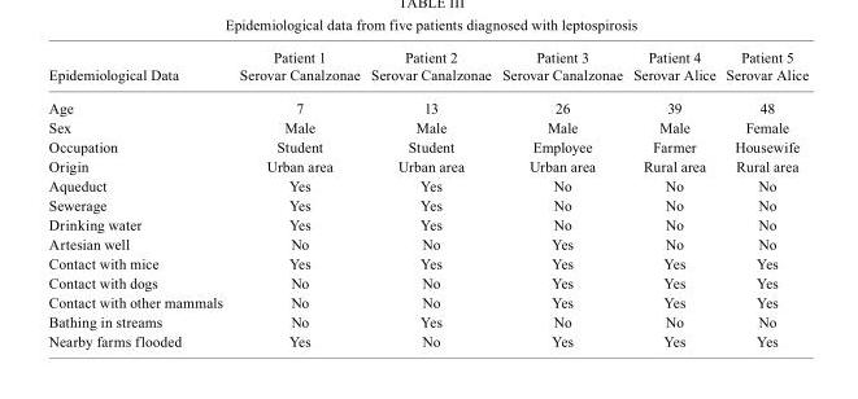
<table><thead><tr><td>Epidemiological Data</td><td>Patient 1 Serovar Canalzonae</td><td>Patient 2 Serovar Canalzonae</td><td>Patient 3 Serovar Canalzonae</td><td>Patient 4 Serovar Alice</td><td>Patient 5 Serovar Alice</td></tr></thead><tbody><tr><td>Age</td><td>7</td><td>13</td><td>26</td><td>39</td><td>48</td></tr><tr><td>Sex</td><td>Male</td><td>Male</td><td>Male</td><td>Male</td><td>Female</td></tr><tr><td>Occupation</td><td>Student</td><td>Student</td><td>Employee</td><td>Farmer</td><td>Housewife</td></tr><tr><td>Origin</td><td>Urban area</td><td>Urban area</td><td>Urban area</td><td>Rural area</td><td>Rural area</td></tr><tr><td>Aqueduct</td><td>Yes</td><td>Yes</td><td>No</td><td>No</td><td>No</td></tr><tr><td>Sewerage</td><td>Yes</td><td>Yes</td><td>No</td><td>No</td><td>No</td></tr><tr><td>Drinking water</td><td>Yes</td><td>Yes</td><td>No</td><td>No</td><td>No</td></tr><tr><td>Artesian well</td><td>No</td><td>No</td><td>Yes</td><td>No</td><td>No</td></tr><tr><td>Contact with mice</td><td>Yes</td><td>Yes</td><td>Yes</td><td>Yes</td><td>Yes</td></tr><tr><td>Contact with dogs</td><td>No</td><td>No</td><td>Yes</td><td>Yes</td><td>Yes</td></tr><tr><td>Contact with other mammals</td><td>No</td><td>No</td><td>Yes</td><td>Yes</td><td>Yes</td></tr><tr><td>Bathing in streams</td><td>No</td><td>Yes</td><td>No</td><td>No</td><td>No</td></tr><tr><td>Nearby farms flooded</td><td>Yes</td><td>No</td><td>Yes</td><td>Yes</td><td>Yes</td></tr></tbody></table>